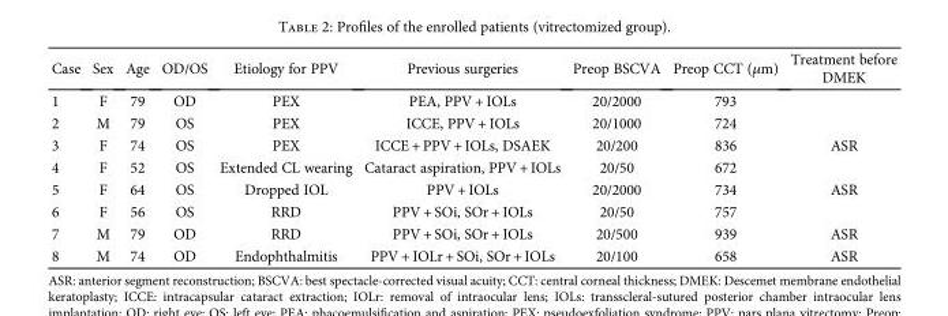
<table><thead><tr><td>Case</td><td>Sex</td><td>Age</td><td>OD/OS</td><td>Etiology for PPV</td><td>Previous surgeries</td><td>Preop BSCVA</td><td>Preop CCT (μm)</td><td>Treatment before DMEK</td></tr></thead><tbody><tr><td>1</td><td>F</td><td>79</td><td>OD</td><td>PEX</td><td>PEA, PPV + IOLs</td><td>20/2000</td><td>793</td><td></td></tr><tr><td>2</td><td>M</td><td>79</td><td>OS</td><td>PEX</td><td>ICCE, PPV + IOLs</td><td>20/1000</td><td>724</td><td></td></tr><tr><td>3</td><td>F</td><td>74</td><td>OS</td><td>PEX</td><td>ICCE + PPV + IOLs, DSAEK</td><td>20/200</td><td>836</td><td>ASR</td></tr><tr><td>4</td><td>F</td><td>52</td><td>OS</td><td>Extended CL wearing</td><td>Cataract aspiration, PPV + IOLs</td><td>20/50</td><td>672</td><td></td></tr><tr><td>5</td><td>F</td><td>64</td><td>OS</td><td>Dropped IOL</td><td>PPV + IOLs</td><td>20/2000</td><td>734</td><td>ASR</td></tr><tr><td>6</td><td>F</td><td>56</td><td>OS</td><td>RRD</td><td>PPV + SOi, SOr + IOLs</td><td>20/50</td><td>757</td><td></td></tr><tr><td>7</td><td>M</td><td>79</td><td>OD</td><td>RRD</td><td>PPV + SOi, SOr + IOLs</td><td>20/500</td><td>939</td><td>ASR</td></tr><tr><td>8</td><td>M</td><td>74</td><td>OD</td><td>Endophthalmitis</td><td>PPV + IOLr + SOi, SOr + IOLs</td><td>20/100</td><td>658</td><td>ASR</td></tr></tbody></table>